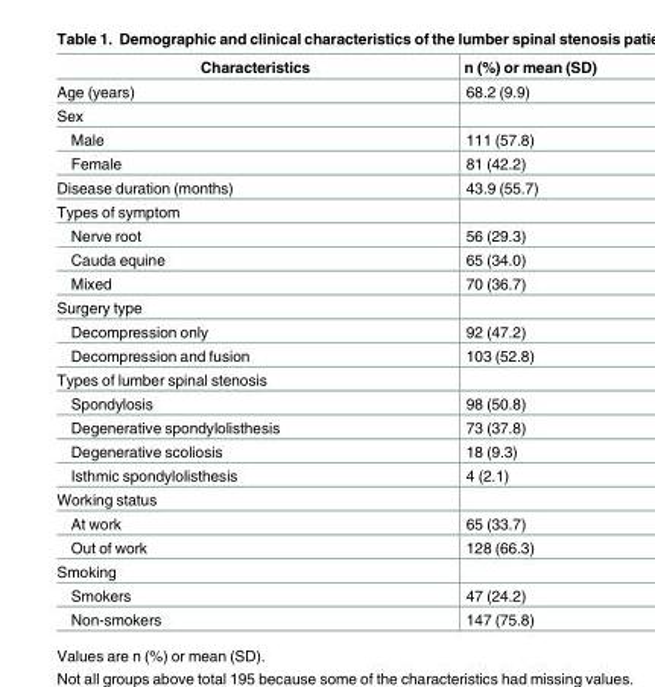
<table><thead><tr><td>Characteristics</td><td>n (%) or mean (SD)</td></tr></thead><tbody><tr><td>Age (years)</td><td>68.2 (9.9)</td></tr><tr><td colspan="2">Sex</td></tr><tr><td>Male</td><td>111 (57.8)</td></tr><tr><td>Female</td><td>81 (42.2)</td></tr><tr><td>Disease duration (months)</td><td>43.9 (55.7)</td></tr><tr><td colspan="2">Types of symptom</td></tr><tr><td>Nerve root</td><td>56 (29.3)</td></tr><tr><td>Cauda equine</td><td>65 (34.0)</td></tr><tr><td>Mixed</td><td>70 (36.7)</td></tr><tr><td colspan="2">Surgery type</td></tr><tr><td>Decompression only</td><td>92 (47.2)</td></tr><tr><td>Decompression and fusion</td><td>103 (52.8)</td></tr><tr><td colspan="2">Types of lumber spinal stenosis</td></tr><tr><td>Spondylosis</td><td>98 (50.8)</td></tr><tr><td>Degenerative spondylolisthesis</td><td>73 (37.8)</td></tr><tr><td>Degenerative scoliosis</td><td>18 (9.3)</td></tr><tr><td>Isthmic spondylolisthesis</td><td>4 (2.1)</td></tr><tr><td colspan="2">Working status</td></tr><tr><td>At work</td><td>65 (33.7)</td></tr><tr><td>Out of work</td><td>128 (66.3)</td></tr><tr><td colspan="2">Smoking</td></tr><tr><td>Smokers</td><td>47 (24.2)</td></tr><tr><td>Non-smokers</td><td>147 (75.8)</td></tr></tbody></table>